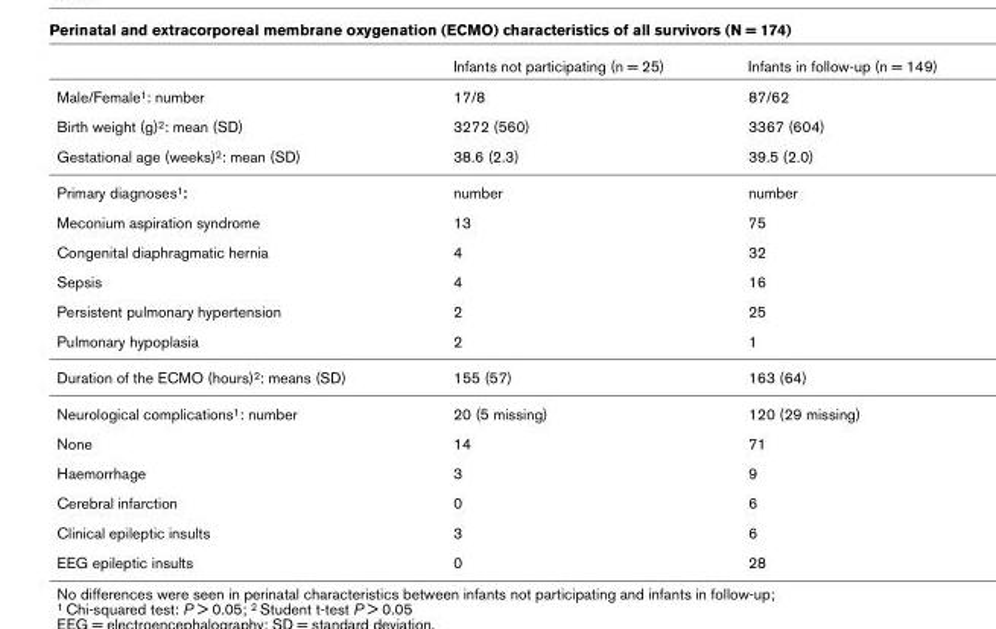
<table><thead><tr><td></td><td>Infants not participating (n = 25)</td><td>Infants in follow-up (n = 149)</td></tr></thead><tbody><tr><td>Male/Female<sup>1</sup>: number</td><td>17/8</td><td>87/62</td></tr><tr><td>Birth weight (g)<sup>2</sup>: mean (SD)</td><td>3272 (560)</td><td>3367 (604)</td></tr><tr><td>Gestational age (weeks)<sup>2</sup>: mean (SD)</td><td>38.6 (2.3)</td><td>39.5 (2.0)</td></tr><tr><td>Primary diagnoses<sup>1</sup>:</td><td>number</td><td>number</td></tr><tr><td>Meconium aspiration syndrome</td><td>13</td><td>75</td></tr><tr><td>Congenital diaphragmatic hernia</td><td>4</td><td>32</td></tr><tr><td>Sepsis</td><td>4</td><td>16</td></tr><tr><td>Persistent pulmonary hypertension</td><td>2</td><td>25</td></tr><tr><td>Pulmonary hypoplasia</td><td>2</td><td>1</td></tr><tr><td>Duration of the ECMO (hours)<sup>2</sup>: means (SD)</td><td>155 (57)</td><td>163 (64)</td></tr><tr><td>Neurological complications<sup>1</sup>: number</td><td>20 (5 missing)</td><td>120 (29 missing)</td></tr><tr><td>None</td><td>14</td><td>71</td></tr><tr><td>Haemorrhage</td><td>3</td><td>9</td></tr><tr><td>Cerebral infarction</td><td>0</td><td>6</td></tr><tr><td>Clinical epileptic insults</td><td>3</td><td>6</td></tr><tr><td>EEG epileptic insults</td><td>0</td><td>28</td></tr></tbody></table>